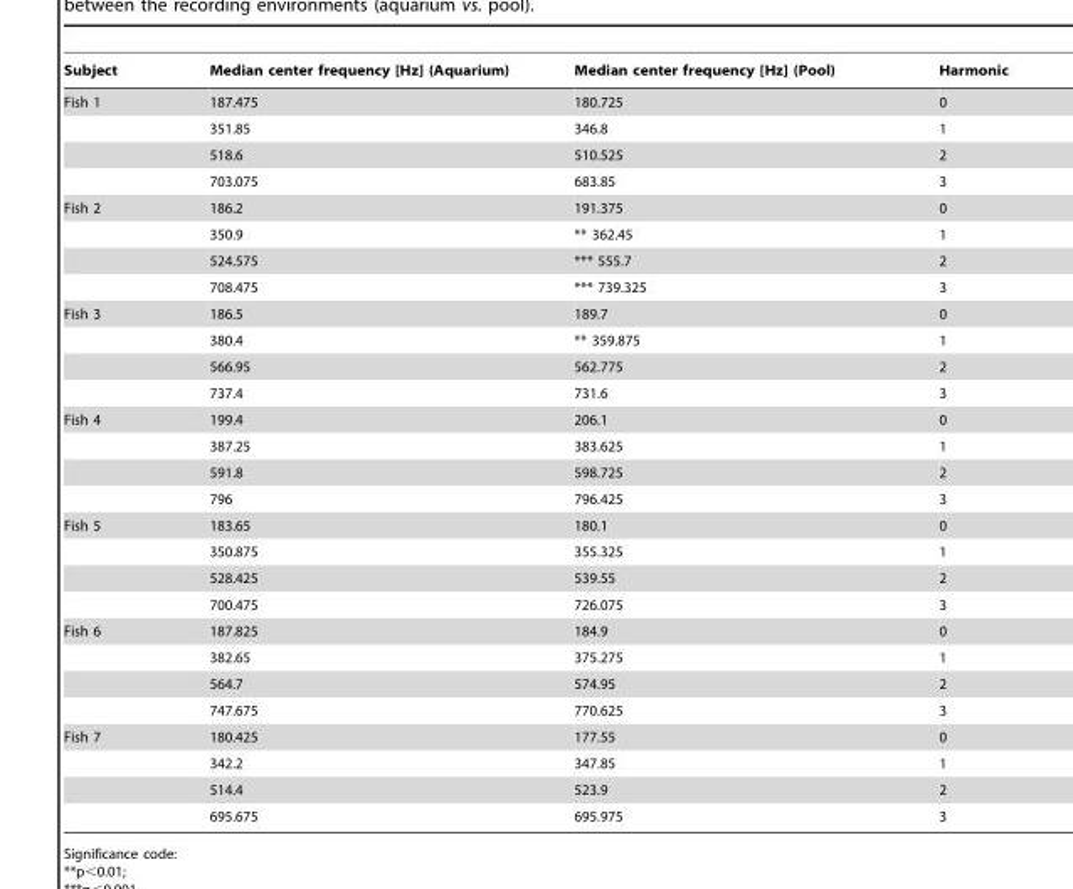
<table><thead><tr><td>Subject</td><td>Median center frequency [Hz] (Aquarium)</td><td>Median center frequency [Hz] (Pool)</td><td>Harmonic</td></tr></thead><tbody><tr><td rowspan="4">Fish 1</td><td>187.475</td><td>180.725</td><td>0</td></tr><tr><td>351.85</td><td>346.8</td><td>1</td></tr><tr><td>518.6</td><td>510.525</td><td>2</td></tr><tr><td>703.075</td><td>683.85</td><td>3</td></tr><tr><td rowspan="4">Fish 2</td><td>186.2</td><td>191.375</td><td>0</td></tr><tr><td>350.9</td><td>** 362.45</td><td>1</td></tr><tr><td>524.575</td><td>*** 555.7</td><td>2</td></tr><tr><td>708.475</td><td>*** 739.325</td><td>3</td></tr><tr><td rowspan="4">Fish 3</td><td>186.5</td><td>189.7</td><td>0</td></tr><tr><td>380.4</td><td>** 359.875</td><td>1</td></tr><tr><td>566.95</td><td>562.775</td><td>2</td></tr><tr><td>737.4</td><td>731.6</td><td>3</td></tr><tr><td rowspan="4">Fish 4</td><td>199.4</td><td>206.1</td><td>0</td></tr><tr><td>387.25</td><td>383.625</td><td>1</td></tr><tr><td>591.8</td><td>598.725</td><td>2</td></tr><tr><td>796</td><td>796.425</td><td>3</td></tr><tr><td rowspan="4">Fish 5</td><td>183.65</td><td>180.1</td><td>0</td></tr><tr><td>350.875</td><td>355.325</td><td>1</td></tr><tr><td>528.425</td><td>539.55</td><td>2</td></tr><tr><td>700.475</td><td>726.075</td><td>3</td></tr><tr><td rowspan="4">Fish 6</td><td>187.825</td><td>184.9</td><td>0</td></tr><tr><td>382.65</td><td>375.275</td><td>1</td></tr><tr><td>564.7</td><td>574.95</td><td>2</td></tr><tr><td>747.675</td><td>770.625</td><td>3</td></tr><tr><td rowspan="4">Fish 7</td><td>180.425</td><td>177.55</td><td>0</td></tr><tr><td>342.2</td><td>347.85</td><td>1</td></tr><tr><td>514.4</td><td>523.9</td><td>2</td></tr><tr><td>695.675</td><td>695.975</td><td>3</td></tr></tbody></table>